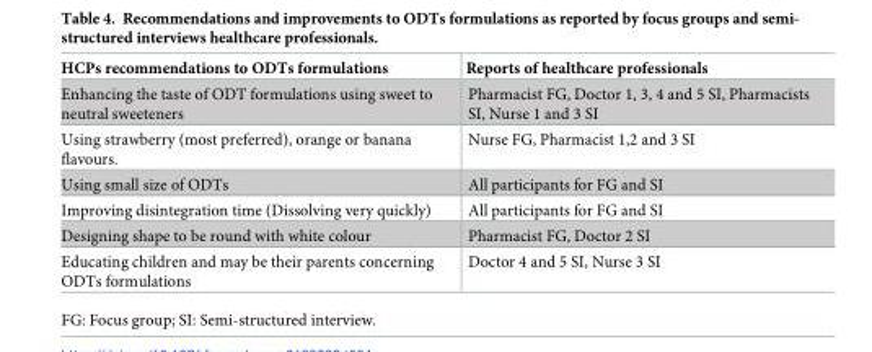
<table><thead><tr><td>HCPs recommendations to ODTs formulations</td><td>Reports of healthcare professionals</td></tr></thead><tbody><tr><td>Enhancing the taste of ODT formulations using sweet to neutral sweeteners</td><td>Pharmacist FG, Doctor 1, 3, 4 and 5 SI, Pharmacists SI, Nurse 1 and 3 SI</td></tr><tr><td>Using strawberry (most preferred), orange or banana flavours.</td><td>Nurse FG, Pharmacist 1,2 and 3 SI</td></tr><tr><td>Using small size of ODTs</td><td>All participants for FG and SI</td></tr><tr><td>Improving disintegration time (Dissolving very quickly)</td><td>All participants for FG and SI</td></tr><tr><td>Designing shape to be round with white colour</td><td>Pharmacist FG, Doctor 2 SI</td></tr><tr><td>Educating children and may be their parents concerning ODTs formulations</td><td>Doctor 4 and 5 SI, Nurse 3 SI</td></tr></tbody></table>